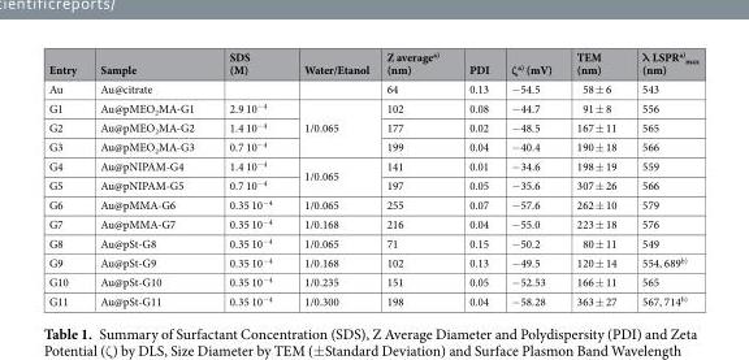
<table><thead><tr><td>Entry</td><td>Sample</td><td>SDS (M)</td><td>Water/Etanol</td><td>Z average<sup>a)</sup> (nm)</td><td>PDI</td><td>ζ<sup>a)</sup> (mV)</td><td>TEM (nm)</td><td>λ LSPR<sup>a)</sup> <sub>max</sub> (nm)</td></tr></thead><tbody><tr><td>Au</td><td>Au@citrate</td><td></td><td></td><td>64</td><td>0.13</td><td>−54.5</td><td>58 ± 6</td><td>543</td></tr><tr><td>G1</td><td>Au@pMEO<sub>2</sub>MA-G1</td><td>2.9 10<sup>−4</sup></td><td rowspan="3">1/0.065</td><td>102</td><td>0.08</td><td>−44.7</td><td>91 ± 8</td><td>556</td></tr><tr><td>G2</td><td>Au@pMEO<sub>2</sub>MA-G2</td><td>1.4 10<sup>−4</sup></td><td>177</td><td>0.02</td><td>−48.5</td><td>167 ± 11</td><td>565</td></tr><tr><td>G3</td><td>Au@pMEO<sub>2</sub>MA-G3</td><td>0.7 10<sup>−4</sup></td><td>199</td><td>0.04</td><td>−40.4</td><td>190 ± 18</td><td>566</td></tr><tr><td>G4</td><td>Au@pNIPAM-G4</td><td>1.4 10<sup>−4</sup></td><td rowspan="2">1/0.065</td><td>141</td><td>0.01</td><td>−34.6</td><td>198 ± 19</td><td>559</td></tr><tr><td>G5</td><td>Au@pNIPAM-G5</td><td>0.7 10<sup>−4</sup></td><td>197</td><td>0.05</td><td>−35.6</td><td>307 ± 26</td><td>566</td></tr><tr><td>G6</td><td>Au@pMMA-G6</td><td>0.35 10<sup>−4</sup></td><td>1/0.065</td><td>255</td><td>0.07</td><td>−57.6</td><td>262 ± 10</td><td>579</td></tr><tr><td>G7</td><td>Au@pMMA-G7</td><td>0.35 10<sup>−4</sup></td><td>1/0.168</td><td>216</td><td>0.04</td><td>−55.0</td><td>223 ± 18</td><td>576</td></tr><tr><td>G8</td><td>Au@pSt-G8</td><td>0.35 10<sup>−4</sup></td><td>1/0.065</td><td>71</td><td>0.15</td><td>−50.2</td><td>80 ± 11</td><td>549</td></tr><tr><td>G9</td><td>Au@pSt-G9</td><td>0.35 10<sup>−4</sup></td><td>1/0.168</td><td>102</td><td>0.13</td><td>−49.5</td><td>120 ± 14</td><td>554, 689<sup>b)</sup></td></tr><tr><td>G10</td><td>Au@pSt-G10</td><td>0.35 10<sup>−4</sup></td><td>1/0.235</td><td>151</td><td>0.05</td><td>−52.53</td><td>166 ± 11</td><td>565</td></tr><tr><td>G11</td><td>Au@pSt-G11</td><td>0.35 10<sup>−4</sup></td><td>1/0.300</td><td>198</td><td>0.04</td><td>−58.28</td><td>363 ± 27</td><td>567, 714<sup>b)</sup></td></tr></tbody></table>